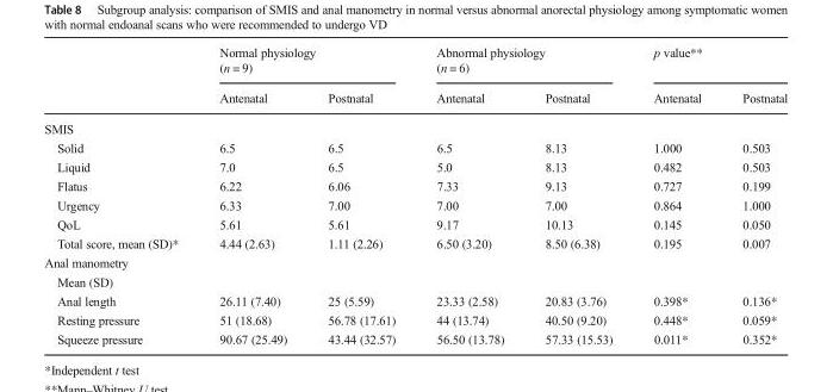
<table><thead><tr><td rowspan="2"></td><td colspan="2">Normal physiology (n = 9)</td><td colspan="2">Abnormal physiology (n = 6)</td><td colspan="2">p value**</td></tr><tr><td>Antenatal</td><td>Postnatal</td><td>Antenatal</td><td>Postnatal</td><td>Antenatal</td><td>Postnatal</td></tr></thead><tbody><tr><td colspan="7">SMIS</td></tr><tr><td>Solid</td><td>6.5</td><td>6.5</td><td>6.5</td><td>8.13</td><td>1.000</td><td>0.503</td></tr><tr><td>Liquid</td><td>7.0</td><td>6.5</td><td>5.0</td><td>8.13</td><td>0.482</td><td>0.503</td></tr><tr><td>Flatus</td><td>6.22</td><td>6.06</td><td>7.33</td><td>9.13</td><td>0.727</td><td>0.199</td></tr><tr><td>Urgency</td><td>6.33</td><td>7.00</td><td>7.00</td><td>7.00</td><td>0.864</td><td>1.000</td></tr><tr><td>QoL</td><td>5.61</td><td>5.61</td><td>9.17</td><td>10.13</td><td>0.145</td><td>0.050</td></tr><tr><td>Total score, mean (SD)*</td><td>4.44 (2.63)</td><td>1.11 (2.26)</td><td>6.50 (3.20)</td><td>8.50 (6.38)</td><td>0.195</td><td>0.007</td></tr><tr><td colspan="7">Anal manometry</td></tr><tr><td colspan="7">Mean (SD)</td></tr><tr><td>Anal length</td><td>26.11 (7.40)</td><td>25 (5.59)</td><td>23.33 (2.58)</td><td>20.83 (3.76)</td><td>0.398*</td><td>0.136*</td></tr><tr><td>Resting pressure</td><td>51 (18.68)</td><td>56.78 (17.61)</td><td>44 (13.74)</td><td>40.50 (9.20)</td><td>0.448*</td><td>0.059*</td></tr><tr><td>Squeeze pressure</td><td>90.67 (25.49)</td><td>43.44 (32.57)</td><td>56.50 (13.78)</td><td>57.33 (15.53)</td><td>0.011*</td><td>0.352*</td></tr></tbody></table>